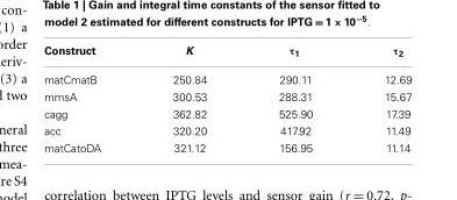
<table><thead><tr><td>Construct</td><td>K</td><td>τ<sub>1</sub></td><td>τ<sub>2</sub></td></tr></thead><tbody><tr><td>matCmatB</td><td>250.84</td><td>290.11</td><td>12.69</td></tr><tr><td>mmsA</td><td>300.53</td><td>288.31</td><td>15.67</td></tr><tr><td>cagg</td><td>362.82</td><td>525.90</td><td>17.39</td></tr><tr><td>acc</td><td>320.20</td><td>417.92</td><td>11.49</td></tr><tr><td>matCatoDA</td><td>321.12</td><td>156.95</td><td>11.14</td></tr></tbody></table>